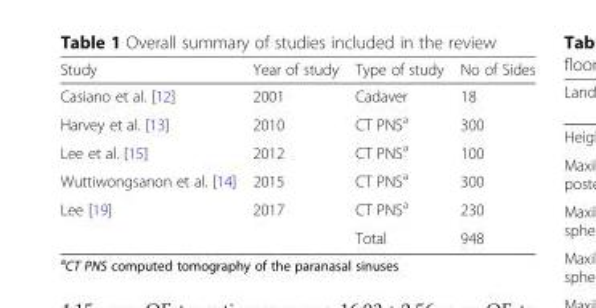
<table><thead><tr><td>Study</td><td>Year of study</td><td>Type of study</td><td>No of Sides</td></tr></thead><tbody><tr><td>Casiano et al. [12]</td><td>2001</td><td>Cadaver</td><td>18</td></tr><tr><td>Harvey et al. [13]</td><td>2010</td><td>CT PNS<sup>a</sup></td><td>300</td></tr><tr><td>Lee et al. [15]</td><td>2012</td><td>CT PNS<sup>a</sup></td><td>100</td></tr><tr><td>Wuttiwongsanon et al. [14]</td><td>2015</td><td>CT PNS<sup>a</sup></td><td>300</td></tr><tr><td rowspan="2">Lee [19]</td><td>2017</td><td>CT PNS<sup>a</sup></td><td>230</td></tr><tr><td></td><td>Total</td><td>948</td></tr></tbody></table>